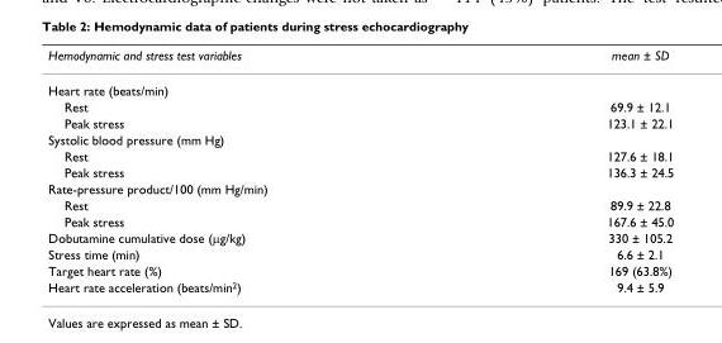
<table><thead><tr><td>Hemodynamic and stress test variables</td><td>mean ± SD</td></tr></thead><tbody><tr><td colspan="2">Heart rate (beats/min)</td></tr><tr><td>Rest</td><td>69.9 ± 12.1</td></tr><tr><td>Peak stress</td><td>123.1 ± 22.1</td></tr><tr><td colspan="2">Systolic blood pressure (mm Hg)</td></tr><tr><td>Rest</td><td>127.6 ± 18.1</td></tr><tr><td>Peak stress</td><td>136.3 ± 24.5</td></tr><tr><td colspan="2">Rate-pressure product/100 (mm Hg/min)</td></tr><tr><td>Rest</td><td>89.9 ± 22.8</td></tr><tr><td>Peak stress</td><td>167.6 ± 45.0</td></tr><tr><td>Dobutamine cumulative dose (μg/kg)</td><td>330 ± 105.2</td></tr><tr><td>Stress time (min)</td><td>6.6 ± 2.1</td></tr><tr><td>Target heart rate (%)</td><td>169 (63.8%)</td></tr><tr><td>Heart rate acceleration (beats/min<sup>2</sup>)</td><td>9.4 ± 5.9</td></tr></tbody></table>